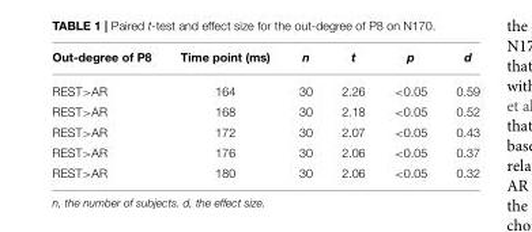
<table><thead><tr><td>Out-degree of P8</td><td>Time point (ms)</td><td>n</td><td>t</td><td>p</td><td>d</td></tr></thead><tbody><tr><td>REST&gt;AR</td><td>164</td><td>30</td><td>2.26</td><td>&lt;0.05</td><td>0.59</td></tr><tr><td>REST&gt;AR</td><td>168</td><td>30</td><td>2.18</td><td>&lt;0.05</td><td>0.52</td></tr><tr><td>REST&gt;AR</td><td>172</td><td>30</td><td>2.07</td><td>&lt;0.05</td><td>0.43</td></tr><tr><td>REST&gt;AR</td><td>176</td><td>30</td><td>2.06</td><td>&lt;0.05</td><td>0.37</td></tr><tr><td>REST&gt;AR</td><td>180</td><td>30</td><td>2.06</td><td>&lt;0.05</td><td>0.32</td></tr></tbody></table>